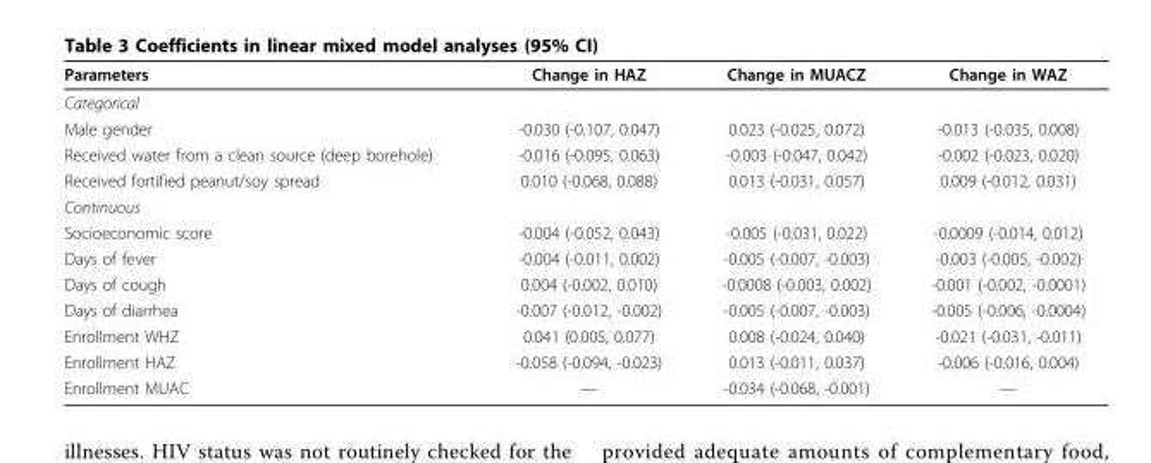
<table><thead><tr><td>Parameters</td><td>Change in HAZ</td><td>Change in MUACZ</td><td>Change in WAZ</td></tr></thead><tbody><tr><td colspan="4">Categorical</td></tr><tr><td>Male gender</td><td>-0.030 (-0.107, 0.047)</td><td>0.023 (-0.025, 0.072)</td><td>-0.013 (-0.035, 0.008)</td></tr><tr><td>Received water from a clean source (deep borehole)</td><td>-0.016 (-0.095, 0.063)</td><td>-0.003 (-0.047, 0.042)</td><td>-0.002 (-0.023, 0.020)</td></tr><tr><td>Received fortified peanut/soy spread</td><td>0.010 (-0.068, 0.088)</td><td>0.013 (-0.031, 0.057)</td><td>0.009 (-0.012, 0.031)</td></tr><tr><td colspan="4">Continuous</td></tr><tr><td>Socioeconomic score</td><td>-0.004 (-0.052, 0.043)</td><td>-0.005 (-0.031, 0.022)</td><td>-0.0009 (-0.014, 0.012)</td></tr><tr><td>Days of fever</td><td>-0.004 (-0.011, 0.002)</td><td>-0.005 (-0.007, -0.003)</td><td>-0.003 (-0.005, -0.002)</td></tr><tr><td>Days of cough</td><td>0.004 (-0.002, 0.010)</td><td>-0.0008 (-0.003, 0.002)</td><td>-0.001 (-0.002, -0.0001)</td></tr><tr><td>Days of diarrhea</td><td>-0.007 (-0.012, -0.002)</td><td>-0.005 (-0.007, -0.003)</td><td>-0.005 (-0.006, -0.0004)</td></tr><tr><td>Enrollment WHZ</td><td>0.041 (0.005, 0.077)</td><td>0.008 (-0.024, 0.040)</td><td>-0.021 (-0.031, -0.011)</td></tr><tr><td>Enrollment HAZ</td><td>-0.058 (-0.094, -0.023)</td><td>0.013 (-0.011, 0.037)</td><td>-0.006 (-0.016, 0.004)</td></tr><tr><td>Enrollment MUAC</td><td>—</td><td>-0.034 (-0.068, -0.001)</td><td>—</td></tr></tbody></table>